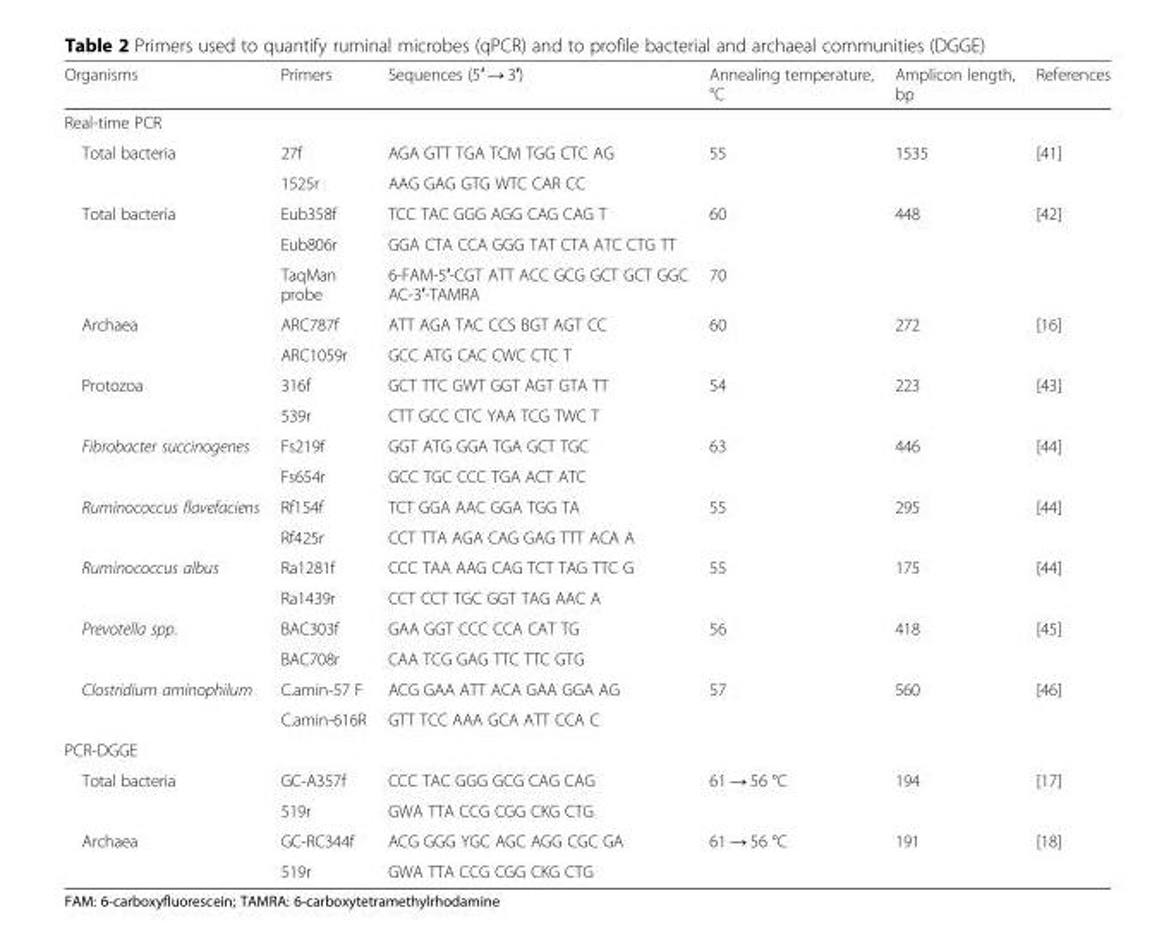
<table><thead><tr><td>Organisms</td><td>Primers</td><td>Sequences (5′ → 3′)</td><td>Annealing temperature, °C</td><td>Amplicon length, bp</td><td>References</td></tr></thead><tbody><tr><td colspan="6">Real-time PCR</td></tr><tr><td rowspan="2">Total bacteria</td><td>27f</td><td>AGA GTT TGA TCM TGG CTC AG</td><td rowspan="2">55</td><td rowspan="2">1535</td><td rowspan="2">[41]</td></tr><tr><td>1525r</td><td>AAG GAG GTG WTC CAR CC</td></tr><tr><td rowspan="3">Total bacteria</td><td>Eub358f</td><td>TCC TAC GGG AGG CAG CAG T</td><td rowspan="2">60</td><td rowspan="2">448</td><td rowspan="2">[42]</td></tr><tr><td>Eub806r</td><td>GGA CTA CCA GGG TAT CTA ATC CTG TT</td></tr><tr><td>TaqMan probe</td><td>6-FAM-5′-CGT ATT ACC GCG GCT GCT GGC AC-3′-TAMRA</td><td>70</td><td></td><td></td></tr><tr><td rowspan="2">Archaea</td><td>ARC787f</td><td>ATT AGA TAC CCS BGT AGT CC</td><td rowspan="2">60</td><td rowspan="2">272</td><td rowspan="2">[16]</td></tr><tr><td>ARC1059r</td><td>GCC ATG CAC CWC CTC T</td></tr><tr><td rowspan="2">Protozoa</td><td>316f</td><td>GCT TTC GWT GGT AGT GTA TT</td><td rowspan="2">54</td><td rowspan="2">223</td><td rowspan="2">[43]</td></tr><tr><td>539r</td><td>CTT GCC CTC YAA TCG TWC T</td></tr><tr><td rowspan="2">Fibrobacter succinogenes</td><td>Fs219f</td><td>GGT ATG GGA TGA GCT TGC</td><td rowspan="2">63</td><td rowspan="2">446</td><td rowspan="2">[44]</td></tr><tr><td>Fs654r</td><td>GCC TGC CCC TGA ACT ATC</td></tr><tr><td rowspan="2">Ruminococcus flavefaciens</td><td>Rf154f</td><td>TCT GGA AAC GGA TGG TA</td><td rowspan="2">55</td><td rowspan="2">295</td><td rowspan="2">[44]</td></tr><tr><td>Rf425r</td><td>CCT TTA AGA CAG GAG TTT ACA A</td></tr><tr><td rowspan="2">Ruminococcus albus</td><td>Ra1281f</td><td>CCC TAA AAG CAG TCT TAG TTC G</td><td rowspan="2">55</td><td rowspan="2">175</td><td rowspan="2">[44]</td></tr><tr><td>Ra1439r</td><td>CCT CCT TGC GGT TAG AAC A</td></tr><tr><td rowspan="2">Prevotella spp.</td><td>BAC303f</td><td>GAA GGT CCC CCA CAT TG</td><td rowspan="2">56</td><td rowspan="2">418</td><td rowspan="2">[45]</td></tr><tr><td>BAC708r</td><td>CAA TCG GAG TTC TTC GTG</td></tr><tr><td rowspan="2">Clostridium aminophilum</td><td>C.amin-57 F</td><td>ACG GAA ATT ACA GAA GGA AG</td><td rowspan="2">57</td><td rowspan="2">560</td><td rowspan="2">[46]</td></tr><tr><td>C.amin-616R</td><td>GTT TCC AAA GCA ATT CCA C</td></tr><tr><td colspan="6">PCR-DGGE</td></tr><tr><td rowspan="2">Total bacteria</td><td>GC-A357f</td><td>CCC TAC GGG GCG CAG CAG</td><td rowspan="2">61 → 56 °C</td><td rowspan="2">194</td><td rowspan="2">[17]</td></tr><tr><td>519r</td><td>GWA TTA CCG CGG CKG CTG</td></tr><tr><td rowspan="2">Archaea</td><td>GC-RC344f</td><td>ACG GGG YGC AGC AGG CGC GA</td><td rowspan="2">61 → 56 °C</td><td rowspan="2">191</td><td rowspan="2">[18]</td></tr><tr><td>519r</td><td>GWA TTA CCG CGG CKG CTG</td></tr></tbody></table>